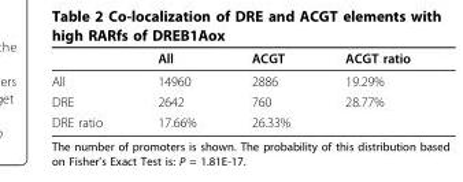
<table><thead><tr><td></td><td>All</td><td>ACGT</td><td>ACGT ratio</td></tr></thead><tbody><tr><td>All</td><td>14960</td><td>2886</td><td>19.29%</td></tr><tr><td>DRE</td><td>2642</td><td>760</td><td>28.77%</td></tr><tr><td>DRE ratio</td><td>17.66%</td><td>26.33%</td><td></td></tr></tbody></table>